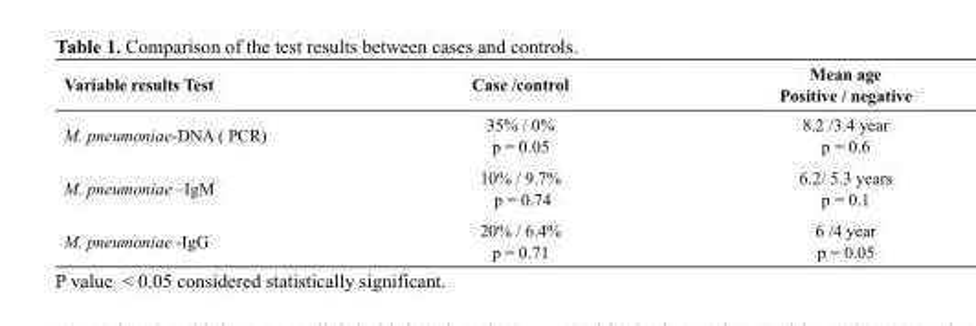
<table><thead><tr><td>Variable results Test</td><td>Case /control</td><td>Mean age Positive / negative</td></tr></thead><tbody><tr><td>M. pneumoniae-DNA ( PCR)</td><td>35% / 0% p = 0.05</td><td>8.2 /3.4 year p = 0.6</td></tr><tr><td>M. pneumoniae –IgM</td><td>10% / 9.7% p = 0.74</td><td>6.2/ 5.3 years p = 0.1</td></tr><tr><td>M. pneumoniae -IgG</td><td>20% / 6.4% p = 0.71</td><td>6 /4 year p = 0.05</td></tr></tbody></table>